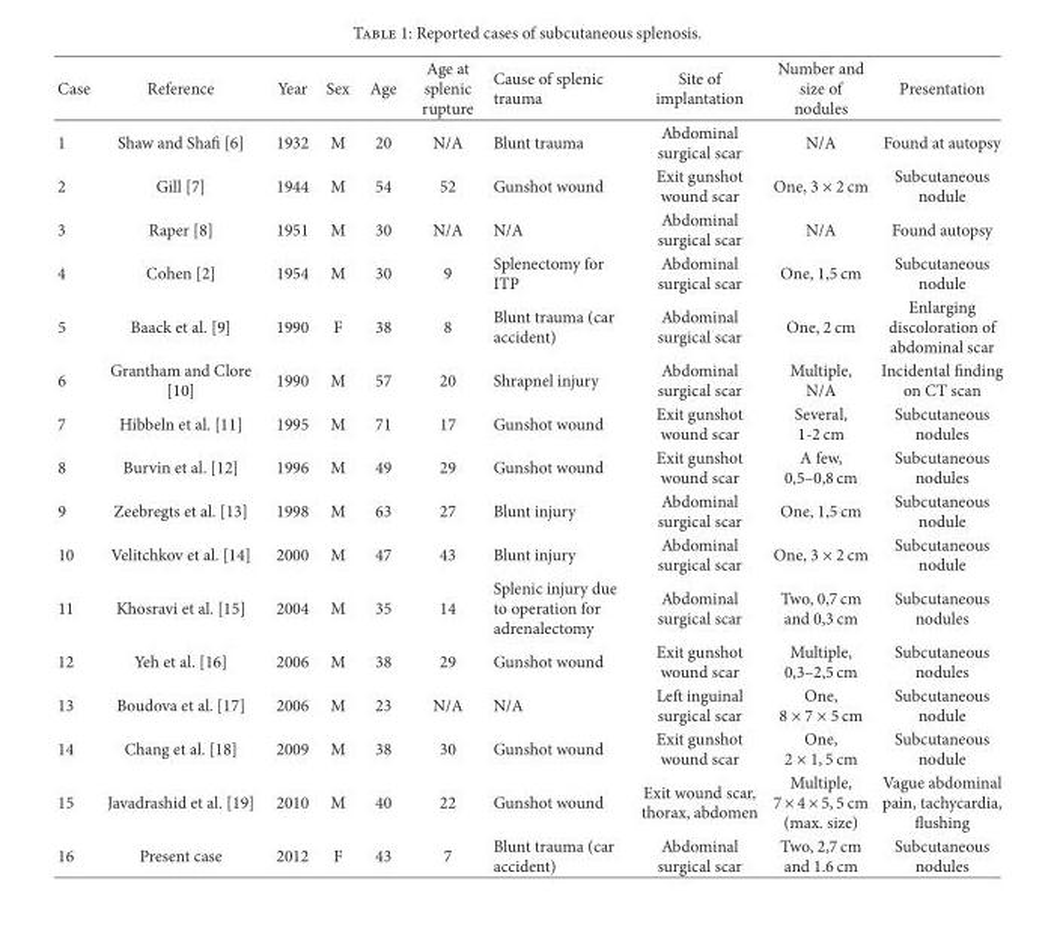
<table><thead><tr><td>Case</td><td>Reference</td><td>Year</td><td>Sex</td><td>Age</td><td>Age at splenic rupture</td><td>Cause of splenic trauma</td><td>Site of implantation</td><td>Number and size of nodules</td><td>Presentation</td></tr></thead><tbody><tr><td>1</td><td>Shaw and Sha� [6]</td><td>1932</td><td>M</td><td>20</td><td>N/A</td><td>Blunt trauma</td><td>Abdominal surgical scar</td><td>N/A</td><td>Found at autopsy</td></tr><tr><td>2</td><td>Gill [7]</td><td>1944</td><td>M</td><td>54</td><td>52</td><td>Gunshot wound</td><td>Exit gunshot wound scar</td><td>One, 3 × 2 cm</td><td>Subcutaneous nodule</td></tr><tr><td>3</td><td>Raper [8]</td><td>1951</td><td>M</td><td>30</td><td>N/A</td><td>N/A</td><td>Abdominal surgical scar</td><td>N/A</td><td>Found autopsy</td></tr><tr><td>4</td><td>Cohen [2]</td><td>1954</td><td>M</td><td>30</td><td>9</td><td>Splenectomy for ITP</td><td>Abdominal surgical scar</td><td>One, 1,5 cm</td><td>Subcutaneous nodule</td></tr><tr><td>5</td><td>Baack et al. [9]</td><td>1990</td><td>F</td><td>38</td><td>8</td><td>Blunt trauma (car accident)</td><td>Abdominal surgical scar</td><td>One, 2 cm</td><td>Enlarging discoloration of abdominal scar</td></tr><tr><td>6</td><td>Grantham and Clore [10]</td><td>1990</td><td>M</td><td>57</td><td>20</td><td>Shrapnel injury</td><td>Abdominal surgical scar</td><td>Multiple, N/A</td><td>Incidental �nding on CT scan</td></tr><tr><td>7</td><td>Hibbeln et al. [11]</td><td>1995</td><td>M</td><td>71</td><td>17</td><td>Gunshot wound</td><td>Exit gunshot wound scar</td><td>Several, 1-2 cm</td><td>Subcutaneous nodules</td></tr><tr><td>8</td><td>Burvin et al. [12]</td><td>1996</td><td>M</td><td>49</td><td>29</td><td>Gunshot wound</td><td>Exit gunshot wound scar</td><td>A few, 0,5–0,8 cm</td><td>Subcutaneous nodules</td></tr><tr><td>9</td><td>Zeebregts et al. [13]</td><td>1998</td><td>M</td><td>63</td><td>27</td><td>Blunt injury</td><td>Abdominal surgical scar</td><td>One, 1,5 cm</td><td>Subcutaneous nodule</td></tr><tr><td>10</td><td>Velitchkov et al. [14]</td><td>2000</td><td>M</td><td>47</td><td>43</td><td>Blunt injury</td><td>Abdominal surgical scar</td><td>One, 3 × 2 cm</td><td>Subcutaneous nodule</td></tr><tr><td>11</td><td>Khosravi et al. [15]</td><td>2004</td><td>M</td><td>35</td><td>14</td><td>Splenic injury due to operation for adrenalectomy</td><td>Abdominal surgical scar</td><td>Two, 0,7 cm and 0,3 cm</td><td>Subcutaneous nodules</td></tr><tr><td>12</td><td>Yeh et al. [16]</td><td>2006</td><td>M</td><td>38</td><td>29</td><td>Gunshot wound</td><td>Exit gunshot wound scar</td><td>Multiple, 0,3–2,5 cm</td><td>Subcutaneous nodules</td></tr><tr><td>13</td><td>Boudova et al. [17]</td><td>2006</td><td>M</td><td>23</td><td>N/A</td><td>N/A</td><td>Le inguinal surgical scar</td><td>One, 8 × 7 × 5 cm</td><td>Subcutaneous nodule</td></tr><tr><td>14</td><td>Chang et al. [18]</td><td>2009</td><td>M</td><td>38</td><td>30</td><td>Gunshot wound</td><td>Exit gunshot wound scar</td><td>One, 2 × 1, 5 cm</td><td>Subcutaneous nodule</td></tr><tr><td>15</td><td>Javadrashid et al. [19]</td><td>2010</td><td>M</td><td>40</td><td>22</td><td>Gunshot wound</td><td>Exit wound scar, thorax, abdomen</td><td>Multiple, 7 × 4 × 5, 5 cm (max. size)</td><td>Vague abdominal pain, tachycardia, �ushing</td></tr><tr><td>16</td><td>Present case</td><td>2012</td><td>F</td><td>43</td><td>7</td><td>Blunt trauma (car accident)</td><td>Abdominal surgical scar</td><td>Two, 2,7 cm and 1.6 cm</td><td>Subcutaneous nodules</td></tr></tbody></table>